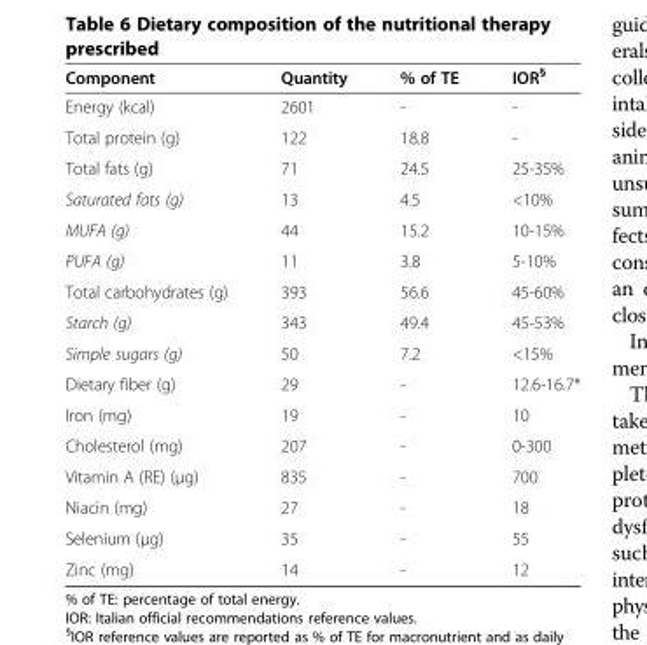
<table><thead><tr><td>Component</td><td>Quantity</td><td>% of TE</td><td>IOR<sup>§</sup></td></tr></thead><tbody><tr><td>Energy (kcal)</td><td>2601</td><td>-</td><td>-</td></tr><tr><td>Total protein (g)</td><td>122</td><td>18.8</td><td>-</td></tr><tr><td>Total fats (g)</td><td>71</td><td>24.5</td><td>25-35%</td></tr><tr><td>Saturated fats (g)</td><td>13</td><td>4.5</td><td>&lt;10%</td></tr><tr><td>MUFA (g)</td><td>44</td><td>15.2</td><td>10-15%</td></tr><tr><td>PUFA (g)</td><td>11</td><td>3.8</td><td>5-10%</td></tr><tr><td>Total carbohydrates (g)</td><td>393</td><td>56.6</td><td>45-60%</td></tr><tr><td>Starch (g)</td><td>343</td><td>49.4</td><td>45-53%</td></tr><tr><td>Simple sugars (g)</td><td>50</td><td>7.2</td><td>&lt;15%</td></tr><tr><td>Dietary fiber (g)</td><td>29</td><td>-</td><td>12.6-16.7*</td></tr><tr><td>Iron (mg)</td><td>19</td><td>-</td><td>10</td></tr><tr><td>Cholesterol (mg)</td><td>207</td><td>-</td><td>0-300</td></tr><tr><td>Vitamin A (RE) (μg)</td><td>835</td><td>-</td><td>700</td></tr><tr><td>Niacin (mg)</td><td>27</td><td>-</td><td>18</td></tr><tr><td>Selenium (μg)</td><td>35</td><td>-</td><td>55</td></tr><tr><td>Zinc (mg)</td><td>14</td><td>-</td><td>12</td></tr></tbody></table>